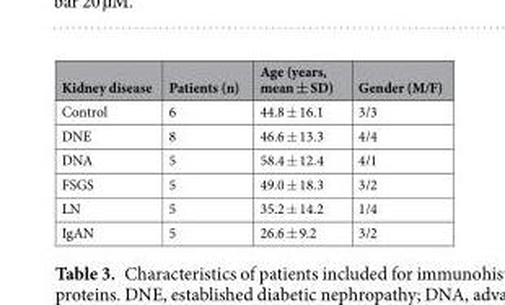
<table><thead><tr><td>Kidney disease</td><td>Patients (n)</td><td>Age (years, mean ± SD)</td><td>Gender (M/F)</td></tr></thead><tbody><tr><td>Control</td><td>6</td><td>44.8 ± 16.1</td><td>3/3</td></tr><tr><td>DNE</td><td>8</td><td>46.6 ± 13.3</td><td>4/4</td></tr><tr><td>DNA</td><td>5</td><td>58.4 ± 12.4</td><td>4/1</td></tr><tr><td>FSGS</td><td>5</td><td>49.0 ± 18.3</td><td>3/2</td></tr><tr><td>LN</td><td>5</td><td>35.2 ± 14.2</td><td>1/4</td></tr><tr><td>IgAN</td><td>5</td><td>26.6 ± 9.2</td><td>3/2</td></tr></tbody></table>